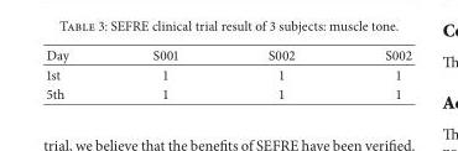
<table><thead><tr><td>Day</td><td>S001</td><td>S002</td><td>S002</td></tr></thead><tbody><tr><td>1st</td><td>1</td><td>1</td><td>1</td></tr><tr><td>5th</td><td>1</td><td>1</td><td>1</td></tr></tbody></table>